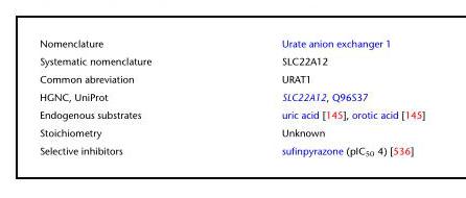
<table><tbody><tr><td>Nomenclature</td><td>Urate anion exchanger 1</td></tr><tr><td>Systematic nomenclature</td><td>SLC22A12</td></tr><tr><td>Common abreviation</td><td>URAT1</td></tr><tr><td>HGNC, UniProt</td><td>SLC22A12, Q96S37</td></tr><tr><td>Endogenous substrates</td><td>uric acid [145], orotic acid [145]</td></tr><tr><td>Stoichiometry</td><td>Unknown</td></tr><tr><td>Selective inhibitors</td><td>sufinpyrazone (pIC<sub>50</sub> 4) [536]</td></tr></tbody></table>